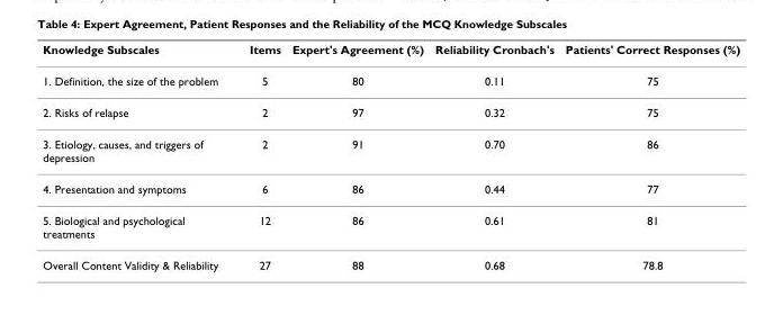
<table><thead><tr><td>Knowledge Subscales</td><td>Items</td><td>Expert&#x27;s Agreement (%)</td><td>Reliability Cronbach&#x27;s</td><td>Patients&#x27; Correct Responses (%)</td></tr></thead><tbody><tr><td>1. Definition, the size of the problem</td><td>5</td><td>80</td><td>0.11</td><td>75</td></tr><tr><td>2. Risks of relapse</td><td>2</td><td>97</td><td>0.32</td><td>75</td></tr><tr><td>3. Etiology, causes, and triggers of depression</td><td>2</td><td>91</td><td>0.70</td><td>86</td></tr><tr><td>4. Presentation and symptoms</td><td>6</td><td>86</td><td>0.44</td><td>77</td></tr><tr><td>5. Biological and psychological treatments</td><td>12</td><td>86</td><td>0.61</td><td>81</td></tr><tr><td>Overall Content Validity &amp; Reliability</td><td>27</td><td>88</td><td>0.68</td><td>78.8</td></tr></tbody></table>